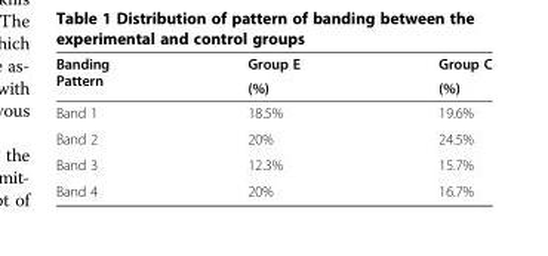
<table><thead><tr><td rowspan="2">Banding Pattern</td><td rowspan="2">Group E (%)</td><td rowspan="2">Group C (%)</td></tr><tr></tr></thead><tbody><tr><td>Band 1</td><td>18.5%</td><td>19.6%</td></tr><tr><td>Band 2</td><td>20%</td><td>24.5%</td></tr><tr><td>Band 3</td><td>12.3%</td><td>15.7%</td></tr><tr><td>Band 4</td><td>20%</td><td>16.7%</td></tr></tbody></table>